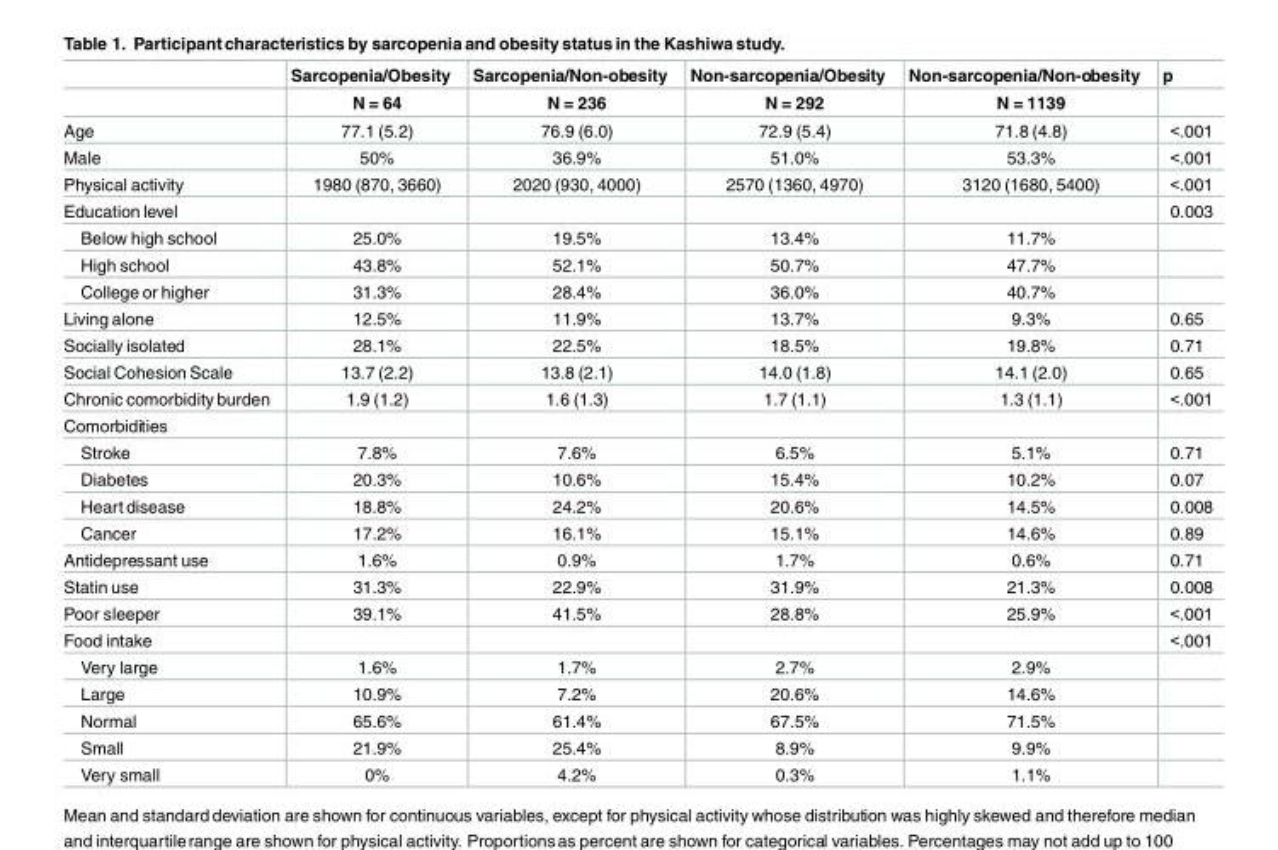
<table><thead><tr><td rowspan="2"></td><td rowspan="2">Sarcopenia/Obesity N = 64</td><td rowspan="2">Sarcopenia/Non-obesity N = 236</td><td rowspan="2">Non-sarcopenia/Obesity N = 292</td><td rowspan="2">Non-sarcopenia/Non-obesity N = 1139</td><td rowspan="2">p</td></tr><tr></tr></thead><tbody><tr><td>Age</td><td>77.1 (5.2)</td><td>76.9 (6.0)</td><td>72.9 (5.4)</td><td>71.8 (4.8)</td><td>&lt;.001</td></tr><tr><td>Male</td><td>50%</td><td>36.9%</td><td>51.0%</td><td>53.3%</td><td>&lt;.001</td></tr><tr><td>Physical activity</td><td>1980 (870, 3660)</td><td>2020 (930, 4000)</td><td>2570 (1360, 4970)</td><td>3120 (1680, 5400)</td><td>&lt;.001</td></tr><tr><td>Education level</td><td></td><td></td><td></td><td></td><td>0.003</td></tr><tr><td>Below high school</td><td>25.0%</td><td>19.5%</td><td>13.4%</td><td>11.7%</td><td></td></tr><tr><td>High school</td><td>43.8%</td><td>52.1%</td><td>50.7%</td><td>47.7%</td><td></td></tr><tr><td>College or higher</td><td>31.3%</td><td>28.4%</td><td>36.0%</td><td>40.7%</td><td></td></tr><tr><td>Living alone</td><td>12.5%</td><td>11.9%</td><td>13.7%</td><td>9.3%</td><td>0.65</td></tr><tr><td>Socially isolated</td><td>28.1%</td><td>22.5%</td><td>18.5%</td><td>19.8%</td><td>0.71</td></tr><tr><td>Social Cohesion Scale</td><td>13.7 (2.2)</td><td>13.8 (2.1)</td><td>14.0 (1.8)</td><td>14.1 (2.0)</td><td>0.65</td></tr><tr><td>Chronic comorbidity burden</td><td>1.9 (1.2)</td><td>1.6 (1.3)</td><td>1.7 (1.1)</td><td>1.3 (1.1)</td><td>&lt;.001</td></tr><tr><td colspan="6">Comorbidities</td></tr><tr><td>Stroke</td><td>7.8%</td><td>7.6%</td><td>6.5%</td><td>5.1%</td><td>0.71</td></tr><tr><td>Diabetes</td><td>20.3%</td><td>10.6%</td><td>15.4%</td><td>10.2%</td><td>0.07</td></tr><tr><td>Heart disease</td><td>18.8%</td><td>24.2%</td><td>20.6%</td><td>14.5%</td><td>0.008</td></tr><tr><td>Cancer</td><td>17.2%</td><td>16.1%</td><td>15.1%</td><td>14.6%</td><td>0.89</td></tr><tr><td>Antidepressant use</td><td>1.6%</td><td>0.9%</td><td>1.7%</td><td>0.6%</td><td>0.71</td></tr><tr><td>Statin use</td><td>31.3%</td><td>22.9%</td><td>31.9%</td><td>21.3%</td><td>0.008</td></tr><tr><td>Poor sleeper</td><td>39.1%</td><td>41.5%</td><td>28.8%</td><td>25.9%</td><td>&lt;.001</td></tr><tr><td>Food intake</td><td></td><td></td><td></td><td></td><td>&lt;.001</td></tr><tr><td>Very large</td><td>1.6%</td><td>1.7%</td><td>2.7%</td><td>2.9%</td><td></td></tr><tr><td>Large</td><td>10.9%</td><td>7.2%</td><td>20.6%</td><td>14.6%</td><td></td></tr><tr><td>Normal</td><td>65.6%</td><td>61.4%</td><td>67.5%</td><td>71.5%</td><td></td></tr><tr><td>Small</td><td>21.9%</td><td>25.4%</td><td>8.9%</td><td>9.9%</td><td></td></tr><tr><td>Very small</td><td>0%</td><td>4.2%</td><td>0.3%</td><td>1.1%</td><td></td></tr></tbody></table>